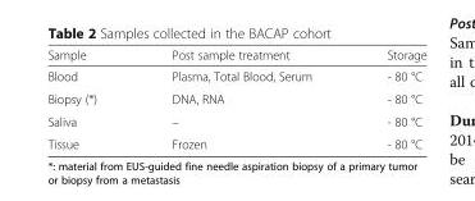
<table><thead><tr><td>Sample</td><td>Post sample treatment</td><td>Storage</td></tr></thead><tbody><tr><td>Blood</td><td>Plasma, Total Blood, Serum</td><td>- 80 °C</td></tr><tr><td>Biopsy (*)</td><td>DNA, RNA</td><td>- 80 °C</td></tr><tr><td>Saliva</td><td>–</td><td>- 80 °C</td></tr><tr><td>Tissue</td><td>Frozen</td><td>- 80 °C</td></tr></tbody></table>